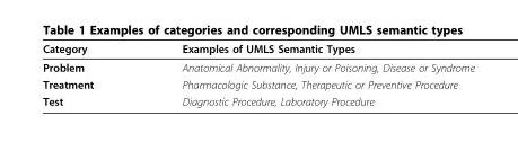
<table><thead><tr><td>Category</td><td>Examples of UMLS Semantic Types</td></tr></thead><tbody><tr><td>Problem</td><td>Anatomical Abnormality, Injury or Poisoning, Disease or Syndrome</td></tr><tr><td>Treatment</td><td>Pharmacologic Substance, Therapeutic or Preventive Procedure</td></tr><tr><td>Test</td><td>Diagnostic Procedure, Laboratory Procedure</td></tr></tbody></table>